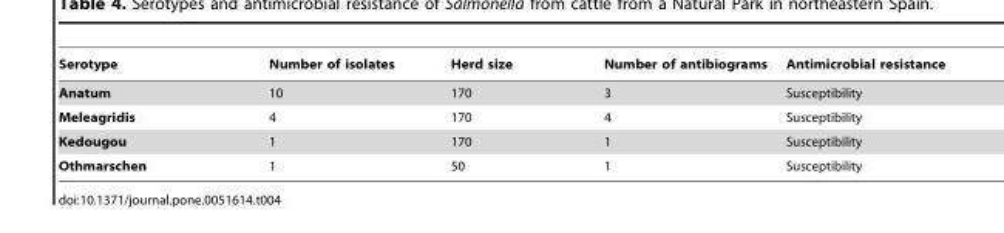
<table><thead><tr><td>Serotype</td><td>Number of isolates</td><td>Herd size</td><td>Number of antibiograms</td><td>Antimicrobial resistance</td></tr></thead><tbody><tr><td>Anatum</td><td>10</td><td>170</td><td>3</td><td>Susceptibility</td></tr><tr><td>Meleagridis</td><td>4</td><td>170</td><td>4</td><td>Susceptibility</td></tr><tr><td>Kedougou</td><td>1</td><td>170</td><td>1</td><td>Susceptibility</td></tr><tr><td>Othmarschen</td><td>1</td><td>50</td><td>1</td><td>Susceptibility</td></tr></tbody></table>